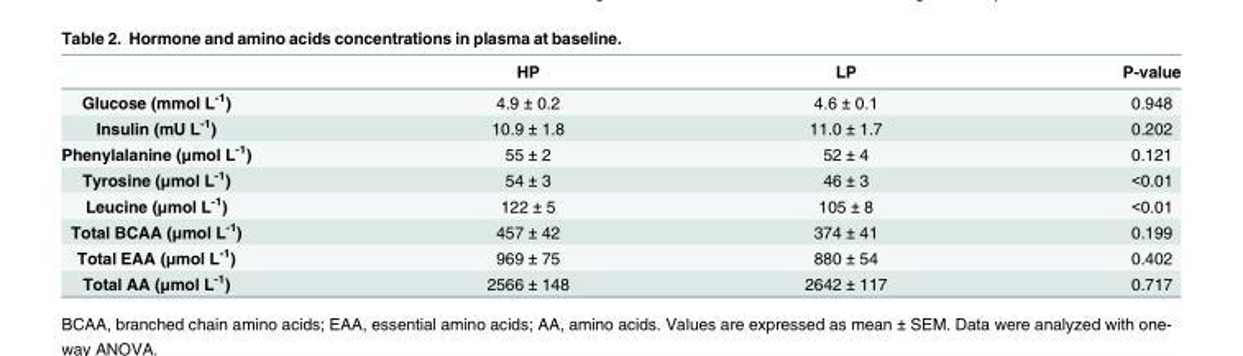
<table><thead><tr><td></td><td>HP</td><td>LP</td><td>P-value</td></tr></thead><tbody><tr><td>Glucose (mmol L<sup>-1</sup>)</td><td>4.9 ± 0.2</td><td>4.6 ± 0.1</td><td>0.948</td></tr><tr><td>Insulin (mU L<sup>-1</sup>)</td><td>10.9 ± 1.8</td><td>11.0 ± 1.7</td><td>0.202</td></tr><tr><td>Phenylalanine (μmol L<sup>-1</sup>)</td><td>55 ± 2</td><td>52 ± 4</td><td>0.121</td></tr><tr><td>Tyrosine (μmol L<sup>-1</sup>)</td><td>54 ± 3</td><td>46 ± 3</td><td>&lt;0.01</td></tr><tr><td>Leucine (μmol L<sup>-1</sup>)</td><td>122 ± 5</td><td>105 ± 8</td><td>&lt;0.01</td></tr><tr><td>Total BCAA (μmol L<sup>-1</sup>)</td><td>457 ± 42</td><td>374 ± 41</td><td>0.199</td></tr><tr><td>Total EAA (μmol L<sup>-1</sup>)</td><td>969 ± 75</td><td>880 ± 54</td><td>0.402</td></tr><tr><td>Total AA (μmol L<sup>-1</sup>)</td><td>2566 ± 148</td><td>2642 ± 117</td><td>0.717</td></tr></tbody></table>